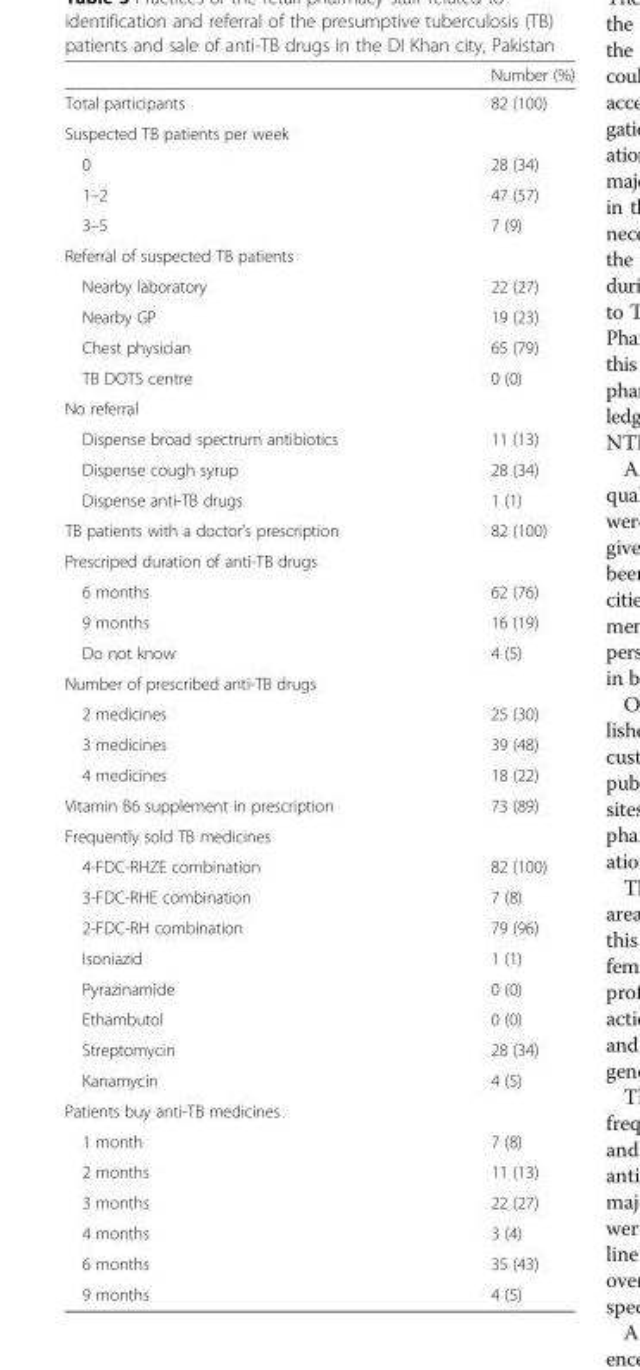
<table><thead><tr><td></td><td>Number (%)</td></tr></thead><tbody><tr><td>Total participants</td><td>82 (100)</td></tr><tr><td colspan="2">Suspected TB patients per week</td></tr><tr><td>0</td><td>28 (34)</td></tr><tr><td>1–2</td><td>47 (57)</td></tr><tr><td>3–5</td><td>7 (9)</td></tr><tr><td colspan="2">Referral of suspected TB patients</td></tr><tr><td>Nearby laboratory</td><td>22 (27)</td></tr><tr><td>Nearby GP</td><td>19 (23)</td></tr><tr><td>Chest physician</td><td>65 (79)</td></tr><tr><td>TB DOTS centre</td><td>0 (0)</td></tr><tr><td colspan="2">No referral</td></tr><tr><td>Dispense broad spectrum antibiotics</td><td>11 (13)</td></tr><tr><td>Dispense cough syrup</td><td>28 (34)</td></tr><tr><td>Dispense anti-TB drugs</td><td>1 (1)</td></tr><tr><td>TB patients with a doctor’s prescription</td><td>82 (100)</td></tr><tr><td colspan="2">Prescriped duration of anti-TB drugs</td></tr><tr><td>6 months</td><td>62 (76)</td></tr><tr><td>9 months</td><td>16 (19)</td></tr><tr><td>Do not know</td><td>4 (5)</td></tr><tr><td colspan="2">Number of prescribed anti-TB drugs</td></tr><tr><td>2 medicines</td><td>25 (30)</td></tr><tr><td>3 medicines</td><td>39 (48)</td></tr><tr><td>4 medicines</td><td>18 (22)</td></tr><tr><td>Vitamin B6 supplement in prescription</td><td>73 (89)</td></tr><tr><td colspan="2">Frequently sold TB medicines</td></tr><tr><td>4-FDC-RHZE combination</td><td>82 (100)</td></tr><tr><td>3-FDC-RHE combination</td><td>7 (8)</td></tr><tr><td>2-FDC-RH combination</td><td>79 (96)</td></tr><tr><td>Isoniazid</td><td>1 (1)</td></tr><tr><td>Pyrazinamide</td><td>0 (0)</td></tr><tr><td>Ethambutol</td><td>0 (0)</td></tr><tr><td>Streptomycin</td><td>28 (34)</td></tr><tr><td>Kanamycin</td><td>4 (5)</td></tr><tr><td colspan="2">Patients buy anti-TB medicines</td></tr><tr><td>1 month</td><td>7 (8)</td></tr><tr><td>2 months</td><td>11 (13)</td></tr><tr><td>3 months</td><td>22 (27)</td></tr><tr><td>4 months</td><td>3 (4)</td></tr><tr><td>6 months</td><td>35 (43)</td></tr><tr><td>9 months</td><td>4 (5)</td></tr></tbody></table>